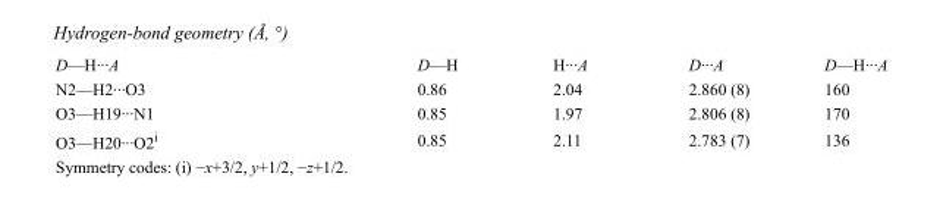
<table><tbody><tr><td>D—H···A</td><td>D—H</td><td>H···A</td><td>D···A</td><td>D—H···A</td></tr><tr><td>N2—H2···O3</td><td>0.86</td><td>2.04</td><td>2.860 (8)</td><td>160</td></tr><tr><td>O3—H19···N1</td><td>0.85</td><td>1.97</td><td>2.806 (8)</td><td>170</td></tr><tr><td>O3—H20···O2<sup>i</sup></td><td>0.85</td><td>2.11</td><td>2.783 (7)</td><td>136</td></tr></tbody></table>